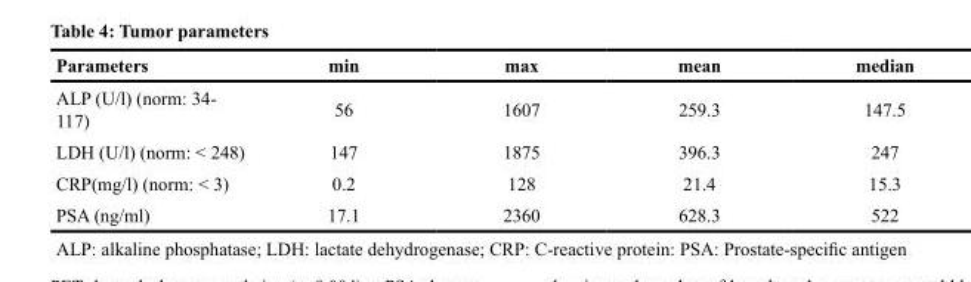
<table><thead><tr><td>Parameters</td><td>min</td><td>max</td><td>mean</td><td>median</td></tr></thead><tbody><tr><td>ALP (U/l) (norm: 34- 117)</td><td>56</td><td>1607</td><td>259.3</td><td>147.5</td></tr><tr><td>LDH (U/l) (norm: &lt; 248)</td><td>147</td><td>1875</td><td>396.3</td><td>247</td></tr><tr><td>CRP(mg/l) (norm: &lt; 3)</td><td>0.2</td><td>128</td><td>21.4</td><td>15.3</td></tr><tr><td>PSA (ng/ml)</td><td>17.1</td><td>2360</td><td>628.3</td><td>522</td></tr></tbody></table>